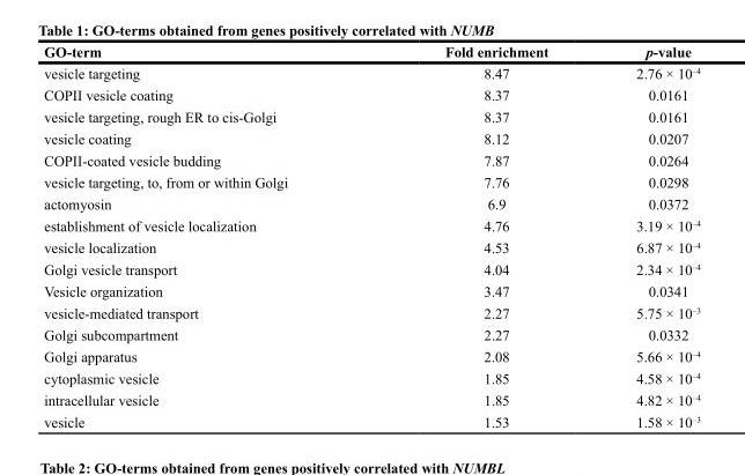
<table><thead><tr><td>GO-term</td><td>Fold enrichment</td><td>p-value</td></tr></thead><tbody><tr><td>vesicle targeting</td><td>8.47</td><td>2.76 × 10<sup>–4</sup></td></tr><tr><td>COPII vesicle coating</td><td>8.37</td><td>0.0161</td></tr><tr><td>vesicle targeting, rough ER to cis-Golgi</td><td>8.37</td><td>0.0161</td></tr><tr><td>vesicle coating</td><td>8.12</td><td>0.0207</td></tr><tr><td>COPII-coated vesicle budding</td><td>7.87</td><td>0.0264</td></tr><tr><td>vesicle targeting, to, from or within Golgi</td><td>7.76</td><td>0.0298</td></tr><tr><td>actomyosin</td><td>6.9</td><td>0.0372</td></tr><tr><td>establishment of vesicle localization</td><td>4.76</td><td>3.19 × 10<sup>–4</sup></td></tr><tr><td>vesicle localization</td><td>4.53</td><td>6.87 × 10<sup>–4</sup></td></tr><tr><td>Golgi vesicle transport</td><td>4.04</td><td>2.34 × 10<sup>–4</sup></td></tr><tr><td>Vesicle organization</td><td>3.47</td><td>0.0341</td></tr><tr><td>vesicle-mediated transport</td><td>2.27</td><td>5.75 × 10<sup>–3</sup></td></tr><tr><td>Golgi subcompartment</td><td>2.27</td><td>0.0332</td></tr><tr><td>Golgi apparatus</td><td>2.08</td><td>5.66 × 10<sup>–4</sup></td></tr><tr><td>cytoplasmic vesicle</td><td>1.85</td><td>4.58 × 10<sup>–4</sup></td></tr><tr><td>intracellular vesicle</td><td>1.85</td><td>4.82 × 10<sup>–4</sup></td></tr><tr><td>vesicle</td><td>1.53</td><td>1.58 × 10<sup>–3</sup></td></tr></tbody></table>